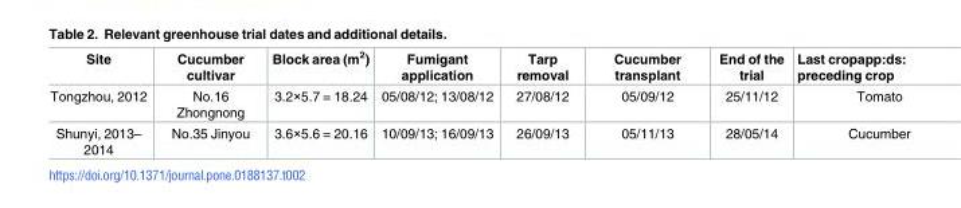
<table><thead><tr><td>Site</td><td>Cucumber cultivar</td><td>Block area (m<sup>2</sup>)</td><td>Fumigant application</td><td>Tarp removal</td><td>Cucumber transplant</td><td>End of the trial</td><td>Last cropapp:ds: preceding crop</td></tr></thead><tbody><tr><td>Tongzhou, 2012</td><td>No.16 Zhongnong</td><td>3.2×5.7 = 18.24</td><td>05/08/12; 13/08/12</td><td>27/08/12</td><td>05/09/12</td><td>25/11/12</td><td>Tomato</td></tr><tr><td>Shunyi, 2013– 2014</td><td>No.35 Jinyou</td><td>3.6×5.6 = 20.16</td><td>10/09/13; 16/09/13</td><td>26/09/13</td><td>05/11/13</td><td>28/05/14</td><td>Cucumber</td></tr></tbody></table>